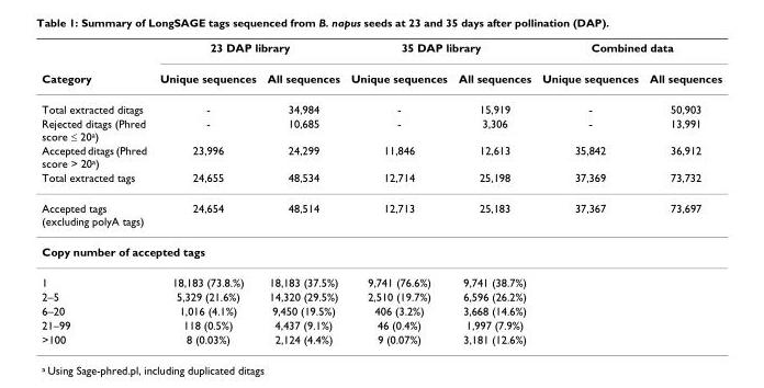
<table><thead><tr><td rowspan="2">Category</td><td colspan="2">23 DAP library</td><td colspan="2">35 DAP library</td><td colspan="2">Combined data</td></tr><tr><td>Unique sequences</td><td>All sequences</td><td>Unique sequences</td><td>All sequences</td><td>Unique sequences</td><td>All sequences</td></tr></thead><tbody><tr><td>Total extracted ditags</td><td>-</td><td>34,984</td><td>-</td><td>15,919</td><td>-</td><td>50,903</td></tr><tr><td>Rejected ditags (Phred score ≤ 20<sup>a</sup>)</td><td>-</td><td>10,685</td><td>-</td><td>3,306</td><td>-</td><td>13,991</td></tr><tr><td>Accepted ditags (Phred score &gt; 20<sup>a</sup>)</td><td>23,996</td><td>24,299</td><td>11,846</td><td>12,613</td><td>35,842</td><td>36,912</td></tr><tr><td>Total extracted tags</td><td>24,655</td><td>48,534</td><td>12,714</td><td>25,198</td><td>37,369</td><td>73,732</td></tr><tr><td>Accepted tags (excluding polyA tags)</td><td>24,654</td><td>48,514</td><td>12,713</td><td>25,183</td><td>37,367</td><td>73,697</td></tr><tr><td colspan="7">Copy number of accepted tags</td></tr><tr><td>1</td><td>18,183 (73.8.%)</td><td>18,183 (37.5%)</td><td>9,741 (76.6%)</td><td>9,741 (38.7%)</td><td></td><td></td></tr><tr><td>2–5</td><td>5,329 (21.6%)</td><td>14,320 (29.5%)</td><td>2,510 (19.7%)</td><td>6,596 (26.2%)</td><td></td><td></td></tr><tr><td>6–20</td><td>1,016 (4.1%)</td><td>9,450 (19.5%)</td><td>406 (3.2%)</td><td>3,668 (14.6%)</td><td></td><td></td></tr><tr><td>21–99</td><td>118 (0.5%)</td><td>4,437 (9.1%)</td><td>46 (0.4%)</td><td>1,997 (7.9%)</td><td></td><td></td></tr><tr><td>&gt;100</td><td>8 (0.03%)</td><td>2,124 (4.4%)</td><td>9 (0.07%)</td><td>3,181 (12.6%)</td><td></td><td></td></tr></tbody></table>